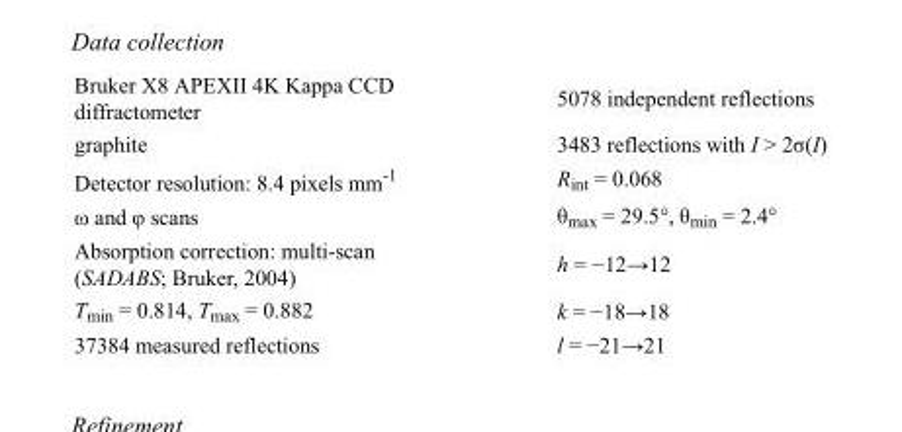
<table><tbody><tr><td>Bruker X8 APEXII 4K Kappa CCD diffractometer</td><td>5078 independent reflections</td></tr><tr><td>graphite</td><td>3483 reflections with I &gt; 2σ(I)</td></tr><tr><td>Detector resolution: 8.4 pixels mm<sup>-1</sup></td><td>R<sub>int</sub> = 0.068</td></tr><tr><td>ω and φ scans</td><td>θ<sub>max</sub> = 29.5°, θ<sub>min</sub> = 2.4°</td></tr><tr><td>Absorption correction: multi-scan (SADABS; Bruker, 2004)</td><td>h = −12→12</td></tr><tr><td>T<sub>min</sub> = 0.814, T<sub>max</sub> = 0.882</td><td>k = −18→18</td></tr><tr><td>37384 measured reflections</td><td>l = −21→21</td></tr></tbody></table>